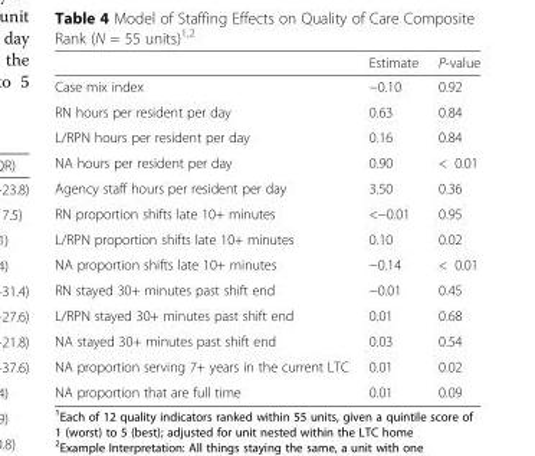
<table><thead><tr><td></td><td>Estimate</td><td>P-value</td></tr></thead><tbody><tr><td>Case mix index</td><td>−0.10</td><td>0.92</td></tr><tr><td>RN hours per resident per day</td><td>0.63</td><td>0.84</td></tr><tr><td>L/RPN hours per resident per day</td><td>0.16</td><td>0.84</td></tr><tr><td>NA hours per resident per day</td><td>0.90</td><td>&lt; 0.01</td></tr><tr><td>Agency staff hours per resident per day</td><td>3.50</td><td>0.36</td></tr><tr><td>RN proportion shifts late 10+ minutes</td><td>&lt;−0.01</td><td>0.95</td></tr><tr><td>L/RPN proportion shifts late 10+ minutes</td><td>0.10</td><td>0.02</td></tr><tr><td>NA proportion shifts late 10+ minutes</td><td>−0.14</td><td>&lt; 0.01</td></tr><tr><td>RN stayed 30+ minutes past shift end</td><td>−0.01</td><td>0.45</td></tr><tr><td>L/RPN stayed 30+ minutes past shift end</td><td>0.01</td><td>0.68</td></tr><tr><td>NA stayed 30+ minutes past shift end</td><td>0.03</td><td>0.54</td></tr><tr><td>NA proportion serving 7+ years in the current LTC</td><td>0.01</td><td>0.02</td></tr><tr><td>NA proportion that are full time</td><td>0.01</td><td>0.09</td></tr></tbody></table>